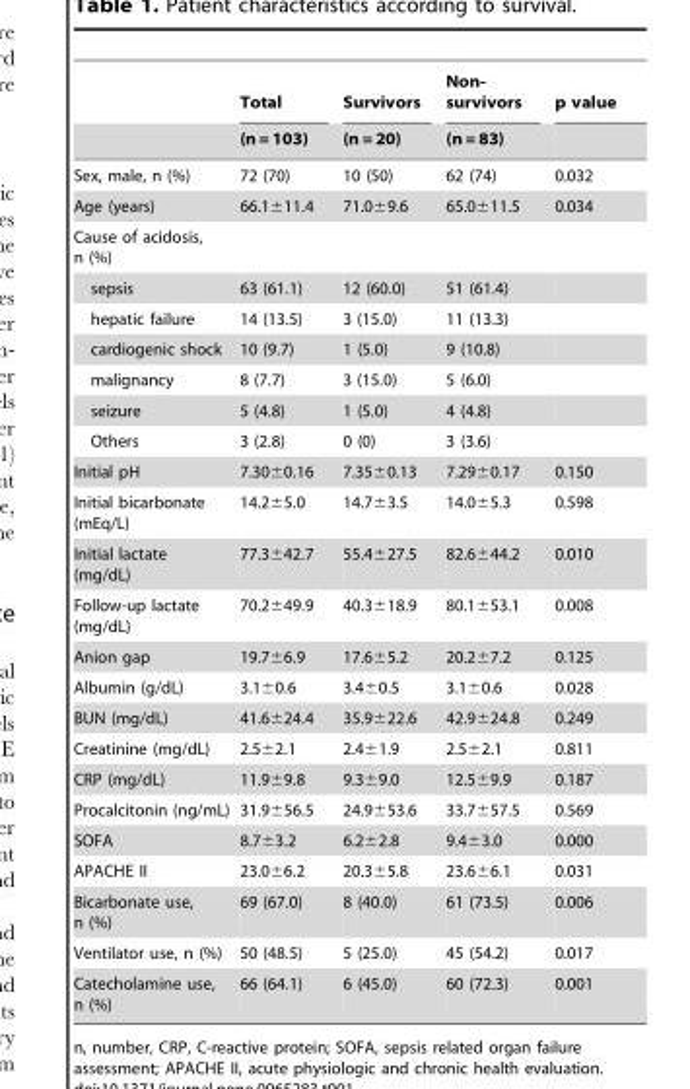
<table><thead><tr><td rowspan="2"></td><td rowspan="2">Total (n = 103)</td><td rowspan="2">Survivors (n = 20)</td><td rowspan="2">Non- survivors (n = 83)</td><td rowspan="2">p value</td></tr><tr></tr></thead><tbody><tr><td>Sex, male, n (%)</td><td>72 (70)</td><td>10 (50)</td><td>62 (74)</td><td>0.032</td></tr><tr><td>Age (years)</td><td>66.1±11.4</td><td>71.0±9.6</td><td>65.0±11.5</td><td>0.034</td></tr><tr><td colspan="5">Cause of acidosis, n (%)</td></tr><tr><td>sepsis</td><td>63 (61.1)</td><td>12 (60.0)</td><td>51 (61.4)</td><td></td></tr><tr><td>hepatic failure</td><td>14 (13.5)</td><td>3 (15.0)</td><td>11 (13.3)</td><td></td></tr><tr><td>cardiogenic shock</td><td>10 (9.7)</td><td>1 (5.0)</td><td>9 (10.8)</td><td></td></tr><tr><td>malignancy</td><td>8 (7.7)</td><td>3 (15.0)</td><td>5 (6.0)</td><td></td></tr><tr><td>seizure</td><td>5 (4.8)</td><td>1 (5.0)</td><td>4 (4.8)</td><td></td></tr><tr><td>Others</td><td>3 (2.8)</td><td>0 (0)</td><td>3 (3.6)</td><td></td></tr><tr><td>Initial pH</td><td>7.30±0.16</td><td>7.35±0.13</td><td>7.29±0.17</td><td>0.150</td></tr><tr><td>Initial bicarbonate (mEq/L)</td><td>14.2±5.0</td><td>14.7±3.5</td><td>14.0±5.3</td><td>0.598</td></tr><tr><td>Initial lactate (mg/dL)</td><td>77.3±42.7</td><td>55.4±27.5</td><td>82.6±44.2</td><td>0.010</td></tr><tr><td>Follow-up lactate (mg/dL)</td><td>70.2±49.9</td><td>40.3±18.9</td><td>80.1±53.1</td><td>0.008</td></tr><tr><td>Anion gap</td><td>19.7±6.9</td><td>17.6±5.2</td><td>20.2±7.2</td><td>0.125</td></tr><tr><td>Albumin (g/dL)</td><td>3.1±0.6</td><td>3.4±0.5</td><td>3.1±0.6</td><td>0.028</td></tr><tr><td>BUN (mg/dL)</td><td>41.6±24.4</td><td>35.9±22.6</td><td>42.9±24.8</td><td>0.249</td></tr><tr><td>Creatinine (mg/dL)</td><td>2.5±2.1</td><td>2.4±1.9</td><td>2.5±2.1</td><td>0.811</td></tr><tr><td>CRP (mg/dL)</td><td>11.9±9.8</td><td>9.3±9.0</td><td>12.5±9.9</td><td>0.187</td></tr><tr><td>Procalcitonin (ng/mL)</td><td>31.9±56.5</td><td>24.9±53.6</td><td>33.7±57.5</td><td>0.569</td></tr><tr><td>SOFA</td><td>8.7±3.2</td><td>6.2±2.8</td><td>9.4±3.0</td><td>0.000</td></tr><tr><td>APACHE II</td><td>23.0±6.2</td><td>20.3±5.8</td><td>23.6±6.1</td><td>0.031</td></tr><tr><td>Bicarbonate use, n (%)</td><td>69 (67.0)</td><td>8 (40.0)</td><td>61 (73.5)</td><td>0.006</td></tr><tr><td>Ventilator use, n (%)</td><td>50 (48.5)</td><td>5 (25.0)</td><td>45 (54.2)</td><td>0.017</td></tr><tr><td>Catecholamine use, n (%)</td><td>66 (64.1)</td><td>6 (45.0)</td><td>60 (72.3)</td><td>0.001</td></tr></tbody></table>